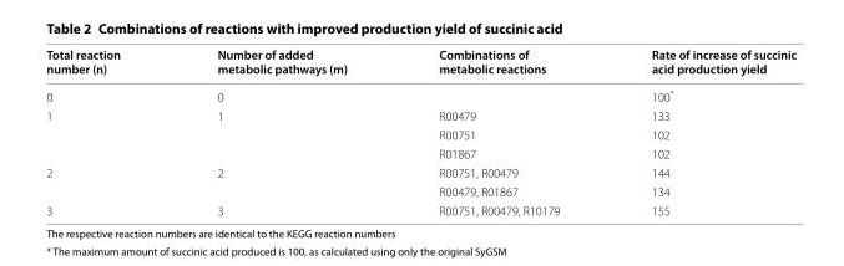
<table><thead><tr><td>Total reaction number (n)</td><td>Number of added metabolic pathways (m)</td><td>Combinations of metabolic reactions</td><td>Rate of increase of succinic acid production yield</td></tr></thead><tbody><tr><td>0</td><td>0</td><td></td><td>100*</td></tr><tr><td rowspan="3">1</td><td>1</td><td>R00479</td><td>133</td></tr><tr><td></td><td>R00751</td><td>102</td></tr><tr><td></td><td>R01867</td><td>102</td></tr><tr><td rowspan="2">2</td><td>2</td><td>R00751, R00479</td><td>144</td></tr><tr><td></td><td>R00479, R01867</td><td>134</td></tr><tr><td>3</td><td>3</td><td>R00751, R00479, R10179</td><td>155</td></tr></tbody></table>